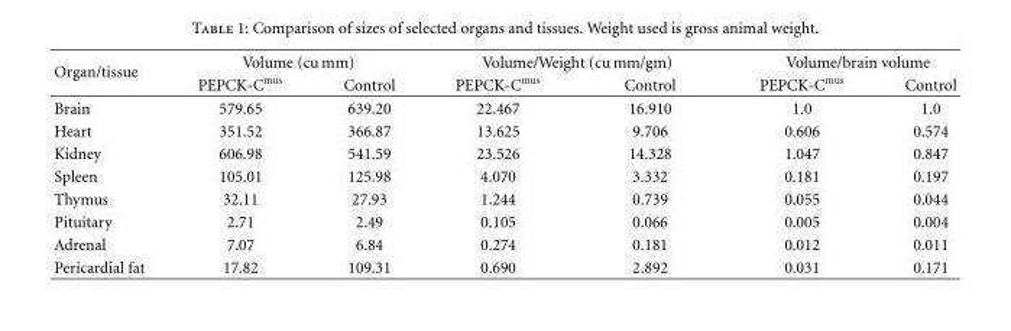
<table><thead><tr><td rowspan="2">Organ/tissue</td><td colspan="2">Volume (cu mm)</td><td colspan="2">Volume/Weight (cu mm/gm)</td><td colspan="2">Volume/brain volume</td></tr><tr><td>PEPCK-C<sup>mus</sup></td><td>Control</td><td>PEPCK-C<sup>mus</sup></td><td>Control</td><td>PEPCK-C<sup>mus</sup></td><td>Control</td></tr></thead><tbody><tr><td>Brain</td><td>579.65</td><td>639.20</td><td>22.467</td><td>16.910</td><td>1.0</td><td>1.0</td></tr><tr><td>Heart</td><td>351.52</td><td>366.87</td><td>13.625</td><td>9.706</td><td>0.606</td><td>0.574</td></tr><tr><td>Kidney</td><td>606.98</td><td>541.59</td><td>23.526</td><td>14.328</td><td>1.047</td><td>0.847</td></tr><tr><td>Spleen</td><td>105.01</td><td>125.98</td><td>4.070</td><td>3.332</td><td>0.181</td><td>0.197</td></tr><tr><td>Thymus</td><td>32.11</td><td>27.93</td><td>1.244</td><td>0.739</td><td>0.055</td><td>0.044</td></tr><tr><td>Pituitary</td><td>2.71</td><td>2.49</td><td>0.105</td><td>0.066</td><td>0.005</td><td>0.004</td></tr><tr><td>Adrenal</td><td>7.07</td><td>6.84</td><td>0.274</td><td>0.181</td><td>0.012</td><td>0.011</td></tr><tr><td>Pericardial fat</td><td>17.82</td><td>109.31</td><td>0.690</td><td>2.892</td><td>0.031</td><td>0.171</td></tr></tbody></table>